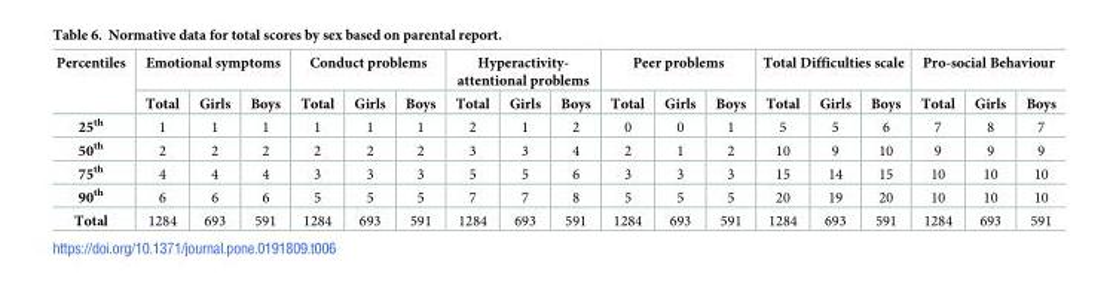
<table><thead><tr><td rowspan="2">Percentiles</td><td colspan="3">Emotional symptoms</td><td colspan="3">Conduct problems</td><td colspan="3">Hyperactivity- attentional problems</td><td colspan="3">Peer problems</td><td colspan="3">Total Difficulties scale</td><td colspan="3">Pro-social Behaviour</td></tr><tr><td>Total</td><td>Girls</td><td>Boys</td><td>Total</td><td>Girls</td><td>Boys</td><td>Total</td><td>Girls</td><td>Boys</td><td>Total</td><td>Girls</td><td>Boys</td><td>Total</td><td>Girls</td><td>Boys</td><td>Total</td><td>Girls</td><td>Boys</td></tr></thead><tbody><tr><td>25<sup>th</sup></td><td>1</td><td>1</td><td>1</td><td>1</td><td>1</td><td>1</td><td>2</td><td>1</td><td>2</td><td>0</td><td>0</td><td>1</td><td>5</td><td>5</td><td>6</td><td>7</td><td>8</td><td>7</td></tr><tr><td>50<sup>th</sup></td><td>2</td><td>2</td><td>2</td><td>2</td><td>2</td><td>2</td><td>3</td><td>3</td><td>4</td><td>2</td><td>1</td><td>2</td><td>10</td><td>9</td><td>10</td><td>9</td><td>9</td><td>9</td></tr><tr><td>75<sup>th</sup></td><td>4</td><td>4</td><td>4</td><td>3</td><td>3</td><td>3</td><td>5</td><td>5</td><td>6</td><td>3</td><td>3</td><td>3</td><td>15</td><td>14</td><td>15</td><td>10</td><td>10</td><td>10</td></tr><tr><td>90<sup>th</sup></td><td>6</td><td>6</td><td>6</td><td>5</td><td>5</td><td>5</td><td>7</td><td>7</td><td>8</td><td>5</td><td>5</td><td>5</td><td>20</td><td>19</td><td>20</td><td>10</td><td>10</td><td>10</td></tr><tr><td>Total</td><td>1284</td><td>693</td><td>591</td><td>1284</td><td>693</td><td>591</td><td>1284</td><td>693</td><td>591</td><td>1284</td><td>693</td><td>591</td><td>1284</td><td>693</td><td>591</td><td>1284</td><td>693</td><td>591</td></tr></tbody></table>